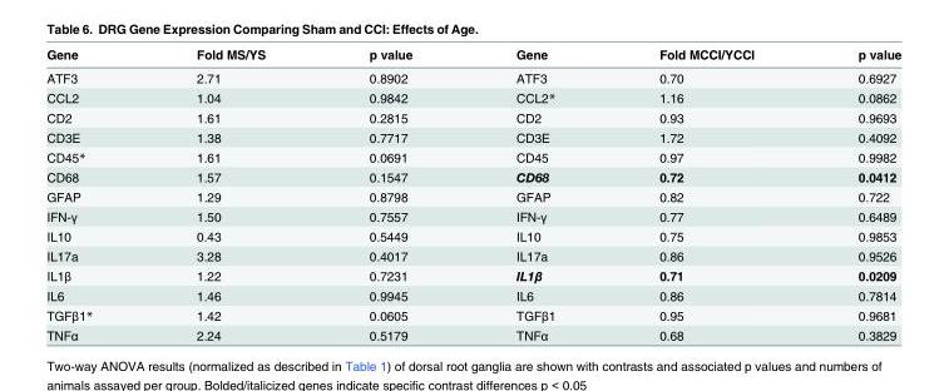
<table><thead><tr><td>Gene</td><td>Fold MS/YS</td><td>p value</td><td>Gene</td><td>Fold MCCI/YCCI</td><td>p value</td></tr></thead><tbody><tr><td>ATF3</td><td>2.71</td><td>0.8902</td><td>ATF3</td><td>0.70</td><td>0.6927</td></tr><tr><td>CCL2</td><td>1.04</td><td>0.9842</td><td>CCL2*</td><td>1.16</td><td>0.0862</td></tr><tr><td>CD2</td><td>1.61</td><td>0.2815</td><td>CD2</td><td>0.93</td><td>0.9693</td></tr><tr><td>CD3E</td><td>1.38</td><td>0.7717</td><td>CD3E</td><td>1.72</td><td>0.4092</td></tr><tr><td>CD45*</td><td>1.61</td><td>0.0691</td><td>CD45</td><td>0.97</td><td>0.9982</td></tr><tr><td>CD68</td><td>1.57</td><td>0.1547</td><td>CD68</td><td>0.72</td><td>0.0412</td></tr><tr><td>GFAP</td><td>1.29</td><td>0.8798</td><td>GFAP</td><td>0.82</td><td>0.722</td></tr><tr><td>IFN-γ</td><td>1.50</td><td>0.7557</td><td>IFN-γ</td><td>0.77</td><td>0.6489</td></tr><tr><td>IL10</td><td>0.43</td><td>0.5449</td><td>IL10</td><td>0.75</td><td>0.9853</td></tr><tr><td>IL17a</td><td>3.28</td><td>0.4017</td><td>IL17a</td><td>0.86</td><td>0.9526</td></tr><tr><td>IL1β</td><td>1.22</td><td>0.7231</td><td>IL1β</td><td>0.71</td><td>0.0209</td></tr><tr><td>IL6</td><td>1.46</td><td>0.9945</td><td>IL6</td><td>0.86</td><td>0.7814</td></tr><tr><td>TGFβ1*</td><td>1.42</td><td>0.0605</td><td>TGFβ1</td><td>0.95</td><td>0.9681</td></tr><tr><td>TNFα</td><td>2.24</td><td>0.5179</td><td>TNFα</td><td>0.68</td><td>0.3829</td></tr></tbody></table>